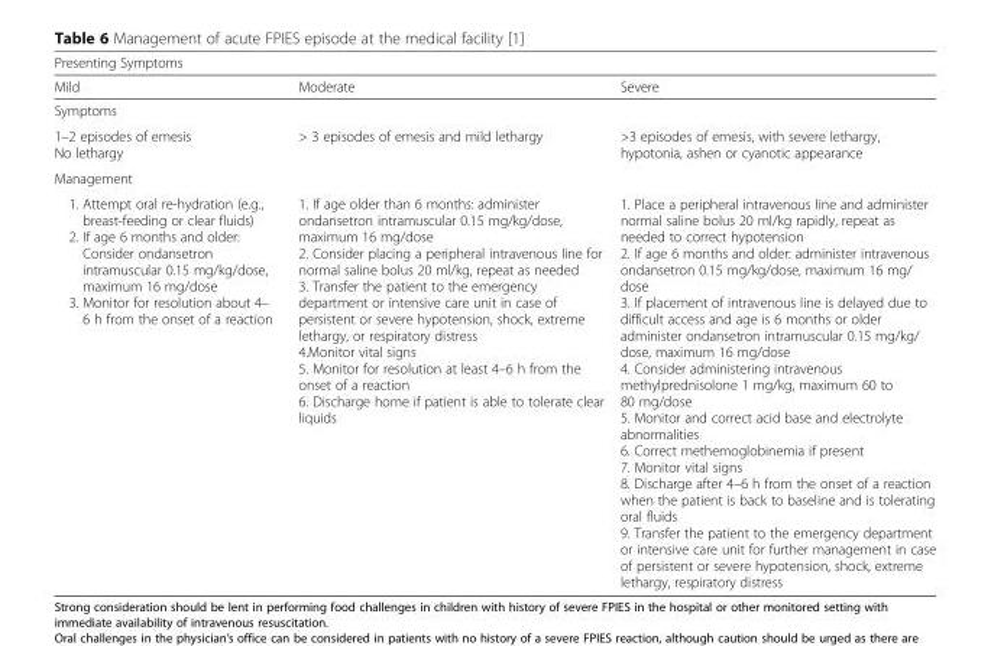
<table><thead><tr><td colspan="3">Presenting Symptoms</td></tr><tr><td>Mild</td><td>Moderate</td><td>Severe</td></tr></thead><tbody><tr><td colspan="3">Symptoms</td></tr><tr><td>1–2 episodes of emesis No lethargy</td><td>&gt; 3 episodes of emesis and mild lethargy</td><td>&gt;3 episodes of emesis, with severe lethargy, hypotonia, ashen or cyanotic appearance</td></tr><tr><td colspan="3">Management</td></tr><tr><td>1. Attempt oral re-hydration (e.g., breast-feeding or clear fluids) 2. If age 6 months and older: Consider ondansetron intramuscular 0.15 mg/kg/dose, maximum 16 mg/dose 3. Monitor for resolution about 4– 6 h from the onset of a reaction</td><td>1. If age older than 6 months: administer ondansetron intramuscular 0.15 mg/kg/dose, maximum 16 mg/dose 2. Consider placing a peripheral intravenous line for normal saline bolus 20 ml/kg, repeat as needed 3. Transfer the patient to the emergency department or intensive care unit in case of persistent or severe hypotension, shock, extreme lethargy, or respiratory distress 4.Monitor vital signs 5. Monitor for resolution at least 4–6 h from the onset of a reaction 6. Discharge home if patient is able to tolerate clear liquids</td><td>1. Place a peripheral intravenous line and administer normal saline bolus 20 ml/kg rapidly, repeat as needed to correct hypotension 2. If age 6 months and older: administer intravenous ondansetron 0.15 mg/kg/dose, maximum 16 mg/ dose 3. If placement of intravenous line is delayed due to difficult access and age is 6 months or older administer ondansetron intramuscular 0.15 mg/kg/ dose, maximum 16 mg/dose 4. Consider administering intravenous methylprednisolone 1 mg/kg, maximum 60 to 80 mg/dose 5. Monitor and correct acid base and electrolyte abnormalities 6. Correct methemoglobinemia if present 7. Monitor vital signs 8. Discharge after 4–6 h from the onset of a reaction when the patient is back to baseline and is tolerating oral fluids 9. Transfer the patient to the emergency department or intensive care unit for further management in case of persistent or severe hypotension, shock, extreme lethargy, respiratory distress</td></tr></tbody></table>